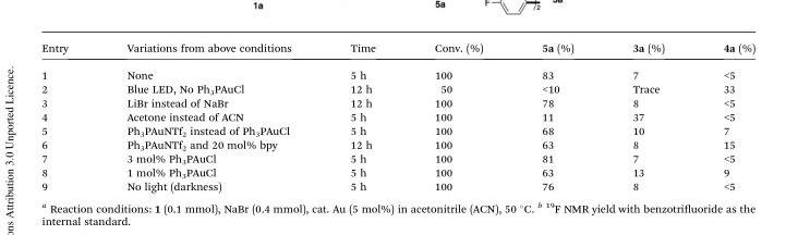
<table><thead><tr><td>Entry</td><td>Variations from above conditions</td><td>Time</td><td>Conv. (%)</td><td>5a (%)</td><td>3a (%)</td><td>4a (%)</td></tr></thead><tbody><tr><td>1</td><td>None</td><td>5 h</td><td>100</td><td>83</td><td>7</td><td>&lt;5</td></tr><tr><td>2</td><td>Blue LED, No Ph<sub>3</sub>PAuCl</td><td>12 h</td><td>50</td><td>&lt;10</td><td>Trace</td><td>33</td></tr><tr><td>3</td><td>LiBr instead of NaBr</td><td>12 h</td><td>100</td><td>78</td><td>8</td><td>&lt;5</td></tr><tr><td>4</td><td>Acetone instead of ACN</td><td>5 h</td><td>100</td><td>11</td><td>37</td><td>&lt;5</td></tr><tr><td>5</td><td>Ph<sub>3</sub>PAuNTf<sub>2</sub> instead of Ph<sub>3</sub>PAuCl</td><td>5 h</td><td>100</td><td>68</td><td>10</td><td>7</td></tr><tr><td>6</td><td>Ph<sub>3</sub>PAuNTf<sub>2</sub> and 20 mol% bpy</td><td>12 h</td><td>100</td><td>63</td><td>8</td><td>15</td></tr><tr><td>7</td><td>3 mol% Ph<sub>3</sub>PAuCl</td><td>5 h</td><td>100</td><td>81</td><td>7</td><td>&lt;5</td></tr><tr><td>8</td><td>1 mol% Ph<sub>3</sub>PAuCl</td><td>5 h</td><td>100</td><td>63</td><td>13</td><td>9</td></tr><tr><td>9</td><td>No light (darkness)</td><td>5 h</td><td>100</td><td>76</td><td>8</td><td>&lt;5</td></tr></tbody></table>